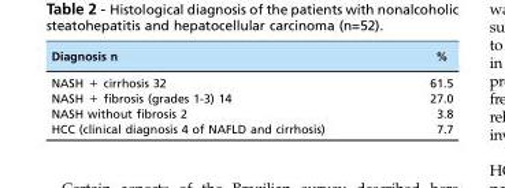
<table><thead><tr><td>Diagnosis n</td><td>%</td></tr></thead><tbody><tr><td>NASH + cirrhosis 32</td><td>61.5</td></tr><tr><td>NASH + fibrosis (grades 1-3) 14</td><td>27.0</td></tr><tr><td>NASH without fibrosis 2</td><td>3.8</td></tr><tr><td>HCC (clinical diagnosis 4 of NAFLD and cirrhosis)</td><td>7.7</td></tr></tbody></table>